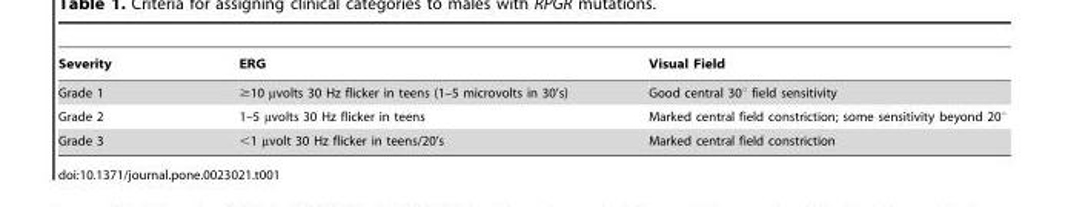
<table><thead><tr><td>Severity</td><td>ERG</td><td>Visual Field</td></tr></thead><tbody><tr><td>Grade 1</td><td>≥10 µvolts 30 Hz flicker in teens (1–5 microvolts in 30’s)</td><td>Good central 30° field sensitivity</td></tr><tr><td>Grade 2</td><td>1–5 µvolts 30 Hz flicker in teens</td><td>Marked central field constriction; some sensitivity beyond 20°</td></tr><tr><td>Grade 3</td><td>&lt;1 µvolt 30 Hz flicker in teens/20’s</td><td>Marked central field constriction</td></tr></tbody></table>